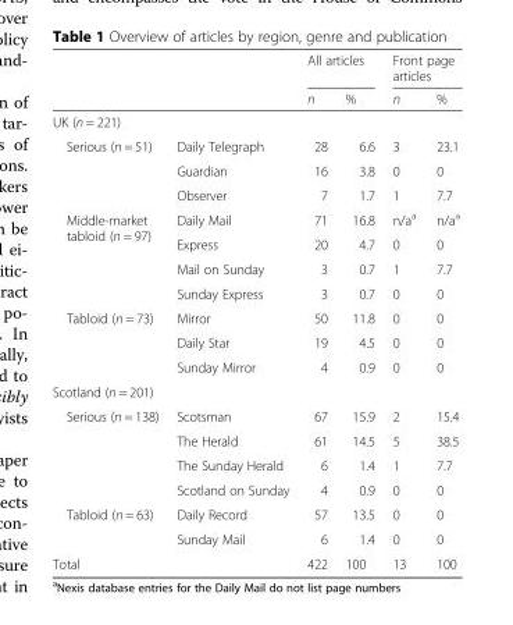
<table><thead><tr><td rowspan="2"></td><td rowspan="2"></td><td colspan="2">All articles</td><td colspan="2">Front page articles</td></tr><tr><td>n</td><td>%</td><td>n</td><td>%</td></tr></thead><tbody><tr><td colspan="6">UK (n = 221)</td></tr><tr><td rowspan="3">Serious (n = 51)</td><td>Daily Telegraph</td><td>28</td><td>6.6</td><td>3</td><td>23.1</td></tr><tr><td>Guardian</td><td>16</td><td>3.8</td><td>0</td><td>0</td></tr><tr><td>Observer</td><td>7</td><td>1.7</td><td>1</td><td>7.7</td></tr><tr><td rowspan="4">Middle-market tabloid (n = 97)</td><td>Daily Mail</td><td>71</td><td>16.8</td><td>n/a<sup>a</sup></td><td>n/a<sup>a</sup></td></tr><tr><td>Express</td><td>20</td><td>4.7</td><td>0</td><td>0</td></tr><tr><td>Mail on Sunday</td><td>3</td><td>0.7</td><td>1</td><td>7.7</td></tr><tr><td>Sunday Express</td><td>3</td><td>0.7</td><td>0</td><td>0</td></tr><tr><td rowspan="3">Tabloid (n = 73)</td><td>Mirror</td><td>50</td><td>11.8</td><td>0</td><td>0</td></tr><tr><td>Daily Star</td><td>19</td><td>4.5</td><td>0</td><td>0</td></tr><tr><td>Sunday Mirror</td><td>4</td><td>0.9</td><td>0</td><td>0</td></tr><tr><td colspan="6">Scotland (n = 201)</td></tr><tr><td rowspan="4">Serious (n = 138)</td><td>Scotsman</td><td>67</td><td>15.9</td><td>2</td><td>15.4</td></tr><tr><td>The Herald</td><td>61</td><td>14.5</td><td>5</td><td>38.5</td></tr><tr><td>The Sunday Herald</td><td>6</td><td>1.4</td><td>1</td><td>7.7</td></tr><tr><td>Scotland on Sunday</td><td>4</td><td>0.9</td><td>0</td><td>0</td></tr><tr><td rowspan="2">Tabloid (n = 63)</td><td>Daily Record</td><td>57</td><td>13.5</td><td>0</td><td>0</td></tr><tr><td>Sunday Mail</td><td>6</td><td>1.4</td><td>0</td><td>0</td></tr><tr><td colspan="2">Total</td><td>422</td><td>100</td><td>13</td><td>100</td></tr></tbody></table>